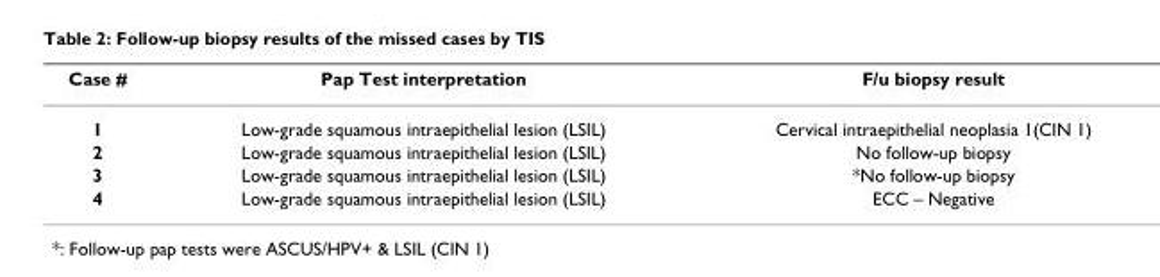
<table><thead><tr><td>Case #</td><td>Pap Test interpretation</td><td>F/u biopsy result</td></tr></thead><tbody><tr><td>1</td><td>Low-grade squamous intraepithelial lesion (LSIL)</td><td>Cervical intraepithelial neoplasia 1(CIN 1)</td></tr><tr><td>2</td><td>Low-grade squamous intraepithelial lesion (LSIL)</td><td>No follow-up biopsy</td></tr><tr><td>3</td><td>Low-grade squamous intraepithelial lesion (LSIL)</td><td>*No follow-up biopsy</td></tr><tr><td>4</td><td>Low-grade squamous intraepithelial lesion (LSIL)</td><td>ECC – Negative</td></tr></tbody></table>